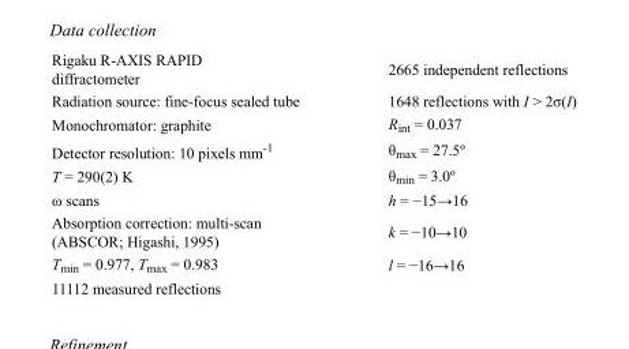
<table><tbody><tr><td>Rigaku R-AXIS RAPID diffractometer</td><td>2665 independent reflections</td></tr><tr><td>Radiation source: fine-focus sealed tube</td><td>1648 reflections with I &gt; 2σ(I)</td></tr><tr><td>Monochromator: graphite</td><td>R<sub>int</sub> = 0.037</td></tr><tr><td>Detector resolution: 10 pixels mm<sup>-1</sup></td><td>θ<sub>max</sub> = 27.5º</td></tr><tr><td>T = 290(2) K</td><td>θ<sub>min</sub> = 3.0º</td></tr><tr><td>ω scans</td><td>h = −15→16</td></tr><tr><td>Absorption correction: multi-scan (ABSCOR; Higashi, 1995)</td><td>k = −10→10</td></tr><tr><td>T<sub>min</sub> = 0.977, T<sub>max</sub> = 0.983</td><td>l = −16→16</td></tr><tr><td>11112 measured reflections</td><td></td></tr></tbody></table>